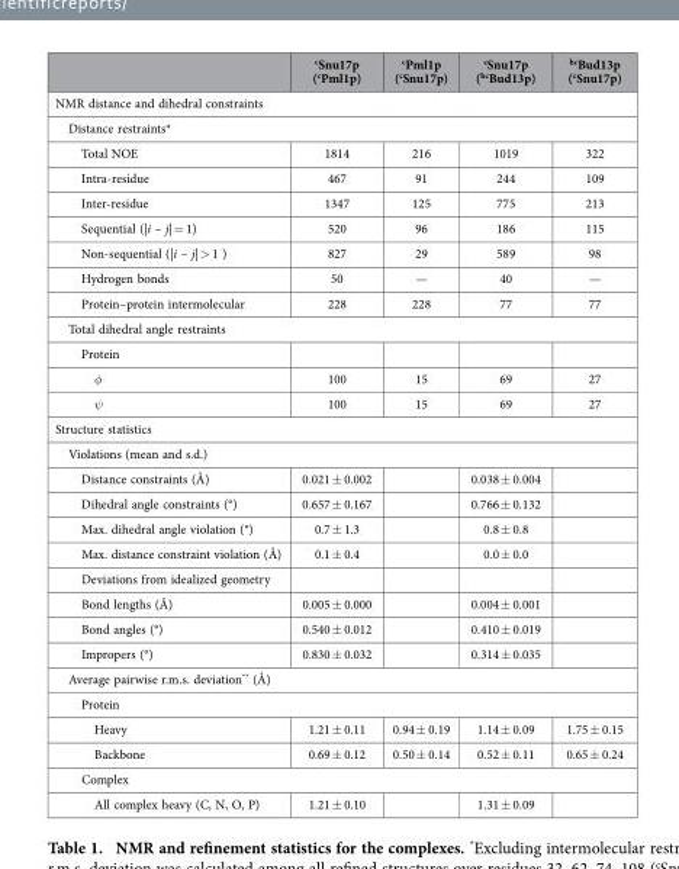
<table><thead><tr><td></td><td><sup>c</sup>Snu17p (<sup>c</sup>Pml1p)</td><td><sup>c</sup>Pml1p (<sup>c</sup>Snu17p)</td><td><sup>c</sup>Snu17p (<sup>hc</sup>Bud13p)</td><td><sup>hc</sup>Bud13p (<sup>c</sup>Snu17p)</td></tr></thead><tbody><tr><td colspan="5">NMR distance and dihedral constraints</td></tr><tr><td colspan="5">Distance restraints*</td></tr><tr><td>Total NOE</td><td>1814</td><td>216</td><td>1019</td><td>322</td></tr><tr><td>Intra-residue</td><td>467</td><td>91</td><td>244</td><td>109</td></tr><tr><td>Inter-residue</td><td>1347</td><td>125</td><td>775</td><td>213</td></tr><tr><td>Sequential (|i – j| = 1)</td><td>520</td><td>96</td><td>186</td><td>115</td></tr><tr><td>Non-sequential (|i – j| &gt; 1 )</td><td>827</td><td>29</td><td>589</td><td>98</td></tr><tr><td>Hydrogen bonds</td><td>50</td><td>—</td><td>40</td><td>—</td></tr><tr><td>Protein–protein intermolecular</td><td>228</td><td>228</td><td>77</td><td>77</td></tr><tr><td colspan="5">Total dihedral angle restraints</td></tr><tr><td colspan="5">Protein</td></tr><tr><td>φ</td><td>100</td><td>15</td><td>69</td><td>27</td></tr><tr><td>ψ</td><td>100</td><td>15</td><td>69</td><td>27</td></tr><tr><td colspan="5">Structure statistics</td></tr><tr><td colspan="5">Violations (mean and s.d.)</td></tr><tr><td>Distance constraints (Å)</td><td>0.021 ± 0.002</td><td></td><td>0.038 ± 0.004</td><td></td></tr><tr><td>Dihedral angle constraints (°)</td><td>0.657 ± 0.167</td><td></td><td>0.766 ± 0.132</td><td></td></tr><tr><td>Max. dihedral angle violation (°)</td><td>0.7 ± 1.3</td><td></td><td>0.8 ± 0.8</td><td></td></tr><tr><td>Max. distance constraint violation (Å)</td><td>0.1 ± 0.4</td><td></td><td>0.0 ± 0.0</td><td></td></tr><tr><td colspan="5">Deviations from idealized geometry</td></tr><tr><td>Bond lengths (Å)</td><td>0.005 ± 0.000</td><td></td><td>0.004 ± 0.001</td><td></td></tr><tr><td>Bond angles (°)</td><td>0.540 ± 0.012</td><td></td><td>0.410 ± 0.019</td><td></td></tr><tr><td>Impropers (°)</td><td>0.830 ± 0.032</td><td></td><td>0.314 ± 0.035</td><td></td></tr><tr><td colspan="5">Average pairwise r.m.s. deviation** (Å)</td></tr><tr><td colspan="5">Protein</td></tr><tr><td>Heavy</td><td>1.21 ± 0.11</td><td>0.94 ± 0.19</td><td>1.14 ± 0.09</td><td>1.75 ± 0.15</td></tr><tr><td>Backbone</td><td>0.69 ± 0.12</td><td>0.50 ± 0.14</td><td>0.52 ± 0.11</td><td>0.65 ± 0.24</td></tr><tr><td colspan="5">Complex</td></tr><tr><td>All complex heavy (C, N, O, P)</td><td>1.21 ± 0.10</td><td></td><td>1.31 ± 0.09</td><td></td></tr></tbody></table>